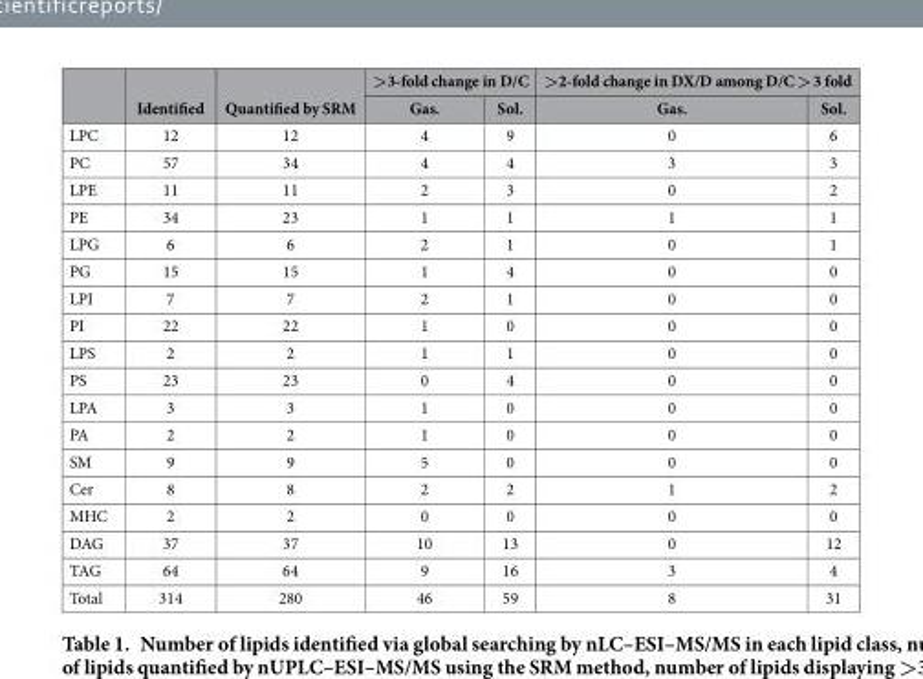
<table><thead><tr><td rowspan="2"></td><td rowspan="2">Identified</td><td rowspan="2">Quantified by SRM</td><td colspan="2">&gt;3-fold change in D/C</td><td colspan="2">&gt;2-fold change in DX/D among D/C &gt; 3 fold</td></tr><tr><td>Gas.</td><td>Sol.</td><td>Gas.</td><td>Sol.</td></tr></thead><tbody><tr><td>LPC</td><td>12</td><td>12</td><td>4</td><td>9</td><td>0</td><td>6</td></tr><tr><td>PC</td><td>57</td><td>34</td><td>4</td><td>4</td><td>3</td><td>3</td></tr><tr><td>LPE</td><td>11</td><td>11</td><td>2</td><td>3</td><td>0</td><td>2</td></tr><tr><td>PE</td><td>34</td><td>23</td><td>1</td><td>1</td><td>1</td><td>1</td></tr><tr><td>LPG</td><td>6</td><td>6</td><td>2</td><td>1</td><td>0</td><td>1</td></tr><tr><td>PG</td><td>15</td><td>15</td><td>1</td><td>4</td><td>0</td><td>0</td></tr><tr><td>LPI</td><td>7</td><td>7</td><td>2</td><td>1</td><td>0</td><td>0</td></tr><tr><td>PI</td><td>22</td><td>22</td><td>1</td><td>0</td><td>0</td><td>0</td></tr><tr><td>LPS</td><td>2</td><td>2</td><td>1</td><td>1</td><td>0</td><td>0</td></tr><tr><td>PS</td><td>23</td><td>23</td><td>0</td><td>4</td><td>0</td><td>0</td></tr><tr><td>LPA</td><td>3</td><td>3</td><td>1</td><td>0</td><td>0</td><td>0</td></tr><tr><td>PA</td><td>2</td><td>2</td><td>1</td><td>0</td><td>0</td><td>0</td></tr><tr><td>SM</td><td>9</td><td>9</td><td>5</td><td>0</td><td>0</td><td>0</td></tr><tr><td>Cer</td><td>8</td><td>8</td><td>2</td><td>2</td><td>1</td><td>2</td></tr><tr><td>MHC</td><td>2</td><td>2</td><td>0</td><td>0</td><td>0</td><td>0</td></tr><tr><td>DAG</td><td>37</td><td>37</td><td>10</td><td>13</td><td>0</td><td>12</td></tr><tr><td>TAG</td><td>64</td><td>64</td><td>9</td><td>16</td><td>3</td><td>4</td></tr><tr><td>Total</td><td>314</td><td>280</td><td>46</td><td>59</td><td>8</td><td>31</td></tr></tbody></table>